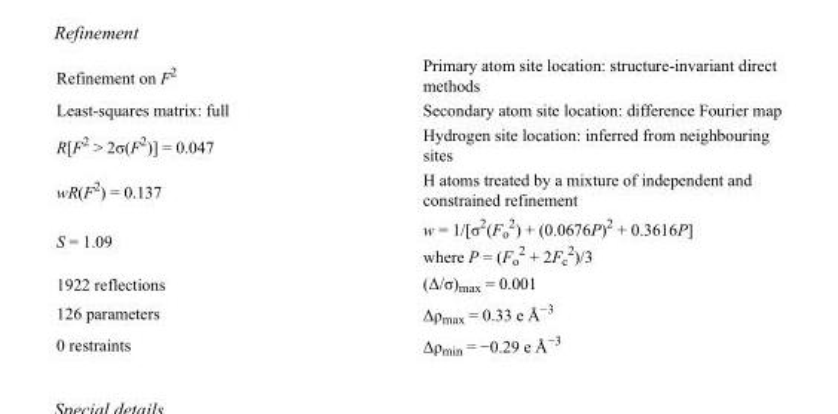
<table><tbody><tr><td>Refinement on F<sup>2</sup></td><td>Primary atom site location: structure-invariant direct methods</td></tr><tr><td>Least-squares matrix: full</td><td>Secondary atom site location: difference Fourier map</td></tr><tr><td>R[F<sup>2</sup> &gt; 2σ(F<sup>2</sup>)] = 0.047</td><td>Hydrogen site location: inferred from neighbouring sites</td></tr><tr><td>wR(F<sup>2</sup>) = 0.137</td><td>H atoms treated by a mixture of independent and constrained refinement</td></tr><tr><td>S = 1.09</td><td>w = 1/[σ<sup>2</sup>(F<sub>o</sub> <sup>2</sup>) + (0.0676P)<sup>2</sup> + 0.3616P] where P = (F<sub>o</sub> <sup>2</sup> + 2F<sub>c</sub> <sup>2</sup>)/3</td></tr><tr><td>1922 reflections</td><td>(Δ/σ)<sub>max</sub> = 0.001</td></tr><tr><td>126 parameters</td><td>Δρ<sub>max</sub> = 0.33 e Å<sup>−3</sup></td></tr><tr><td>0 restraints</td><td>Δρ<sub>min</sub> = −0.29 e Å<sup>−3</sup></td></tr></tbody></table>